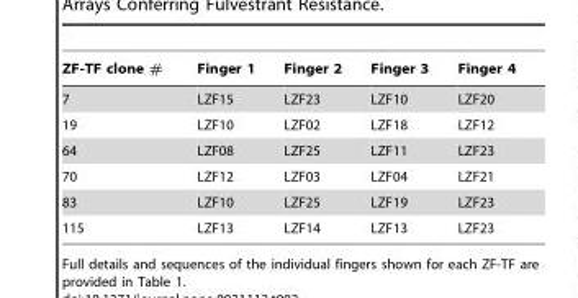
<table><thead><tr><td>ZF-TF clone #</td><td>Finger 1</td><td>Finger 2</td><td>Finger 3</td><td>Finger 4</td></tr></thead><tbody><tr><td>7</td><td>LZF15</td><td>LZF23</td><td>LZF10</td><td>LZF20</td></tr><tr><td>19</td><td>LZF10</td><td>LZF02</td><td>LZF18</td><td>LZF12</td></tr><tr><td>64</td><td>LZF08</td><td>LZF25</td><td>LZF11</td><td>LZF23</td></tr><tr><td>70</td><td>LZF12</td><td>LZF03</td><td>LZF04</td><td>LZF21</td></tr><tr><td>83</td><td>LZF10</td><td>LZF25</td><td>LZF19</td><td>LZF23</td></tr><tr><td>115</td><td>LZF13</td><td>LZF14</td><td>LZF13</td><td>LZF23</td></tr></tbody></table>